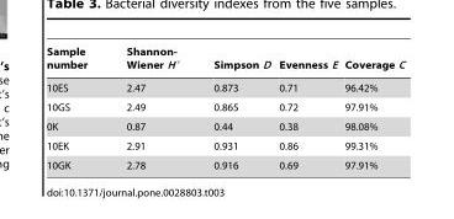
<table><thead><tr><td>Sample number</td><td>Shannon- Wiener H′</td><td>Simpson D</td><td>Evenness E</td><td>Coverage C</td></tr></thead><tbody><tr><td>10ES</td><td>2.47</td><td>0.873</td><td>0.71</td><td>96.42%</td></tr><tr><td>10GS</td><td>2.49</td><td>0.865</td><td>0.72</td><td>97.91%</td></tr><tr><td>0K</td><td>0.87</td><td>0.44</td><td>0.38</td><td>98.08%</td></tr><tr><td>10EK</td><td>2.91</td><td>0.931</td><td>0.86</td><td>99.31%</td></tr><tr><td>10GK</td><td>2.78</td><td>0.916</td><td>0.69</td><td>97.91%</td></tr></tbody></table>